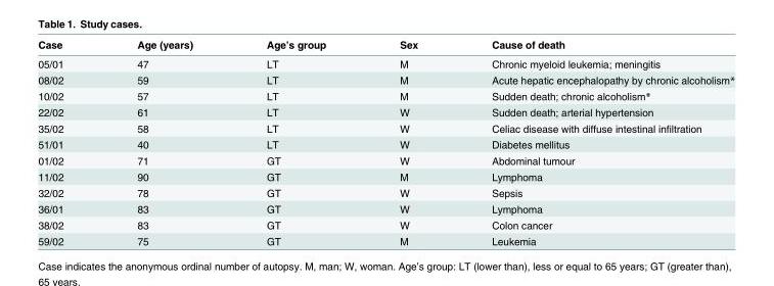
<table><thead><tr><td>Case</td><td>Age (years)</td><td>Age’s group</td><td>Sex</td><td>Cause of death</td></tr></thead><tbody><tr><td>05/01</td><td>47</td><td>LT</td><td>M</td><td>Chronic myeloid leukemia; meningitis</td></tr><tr><td>08/02</td><td>59</td><td>LT</td><td>M</td><td>Acute hepatic encephalopathy by chronic alcoholism*</td></tr><tr><td>10/02</td><td>57</td><td>LT</td><td>M</td><td>Sudden death; chronic alcoholism*</td></tr><tr><td>22/02</td><td>61</td><td>LT</td><td>W</td><td>Sudden death; arterial hypertension</td></tr><tr><td>35/02</td><td>58</td><td>LT</td><td>W</td><td>Celiac disease with diffuse intestinal infiltration</td></tr><tr><td>51/01</td><td>40</td><td>LT</td><td>W</td><td>Diabetes mellitus</td></tr><tr><td>01/02</td><td>71</td><td>GT</td><td>W</td><td>Abdominal tumour</td></tr><tr><td>11/02</td><td>90</td><td>GT</td><td>M</td><td>Lymphoma</td></tr><tr><td>32/02</td><td>78</td><td>GT</td><td>W</td><td>Sepsis</td></tr><tr><td>36/01</td><td>83</td><td>GT</td><td>W</td><td>Lymphoma</td></tr><tr><td>38/02</td><td>83</td><td>GT</td><td>W</td><td>Colon cancer</td></tr><tr><td>59/02</td><td>75</td><td>GT</td><td>M</td><td>Leukemia</td></tr></tbody></table>